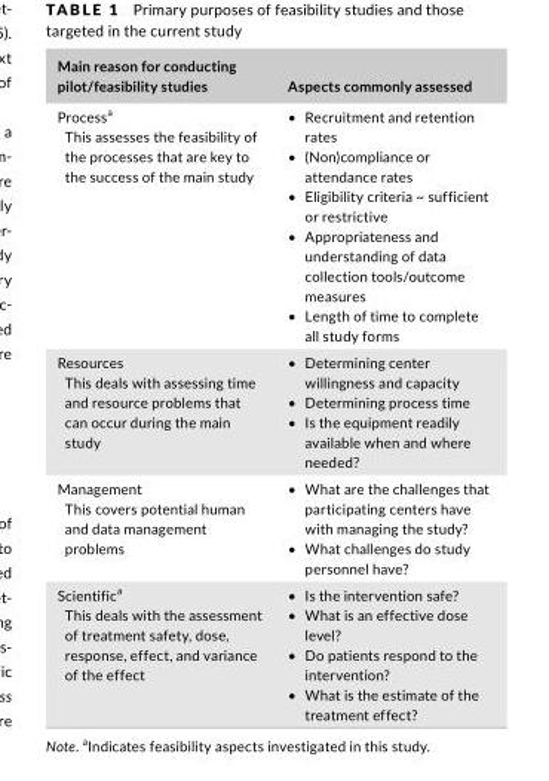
<table><thead><tr><td>Main reason for conducting pilot/feasibility studies</td><td>Aspects commonly assessed</td></tr></thead><tbody><tr><td>Process<sup>a</sup> This assesses the feasibility of the processes that are key to the success of the main study</td><td>• Recruitment and retention rates • (Non)compliance or attendance rates • Eligibility criteria ~ sufficient or restrictive • Appropriateness and understanding of data collection tools/outcome measures • Length of time to complete all study forms</td></tr><tr><td>Resources This deals with assessing time and resource problems that can occur during the main study</td><td>• Determining center willingness and capacity • Determining process time • Is the equipment readily available when and where needed?</td></tr><tr><td>Management This covers potential human and data management problems</td><td>• What are the challenges that participating centers have with managing the study? • What challenges do study personnel have?</td></tr><tr><td>Scientific<sup>a</sup> This deals with the assessment of treatment safety, dose, response, effect, and variance of the effect</td><td>• Is the intervention safe? • What is an effective dose level? • Do patients respond to the intervention? • What is the estimate of the treatment effect?</td></tr></tbody></table>